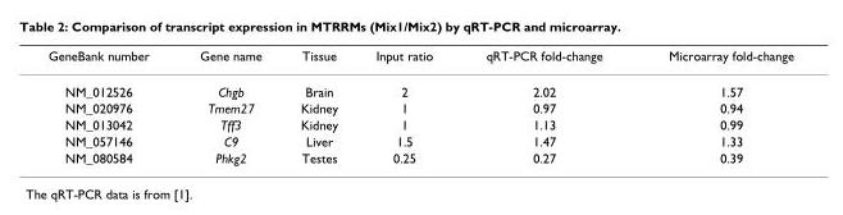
<table><thead><tr><td>GeneBank number</td><td>Gene name</td><td>Tissue</td><td>Input ratio</td><td>qRT-PCR fold-change</td><td>Microarray fold-change</td></tr></thead><tbody><tr><td>NM_012526</td><td>Chgb</td><td>Brain</td><td>2</td><td>2.02</td><td>1.57</td></tr><tr><td>NM_020976</td><td>Tmem27</td><td>Kidney</td><td>1</td><td>0.97</td><td>0.94</td></tr><tr><td>NM_013042</td><td>Tff3</td><td>Kidney</td><td>1</td><td>1.13</td><td>0.99</td></tr><tr><td>NM_057146</td><td>C9</td><td>Liver</td><td>1.5</td><td>1.47</td><td>1.33</td></tr><tr><td>NM_080584</td><td>Phkg2</td><td>Testes</td><td>0.25</td><td>0.27</td><td>0.39</td></tr></tbody></table>